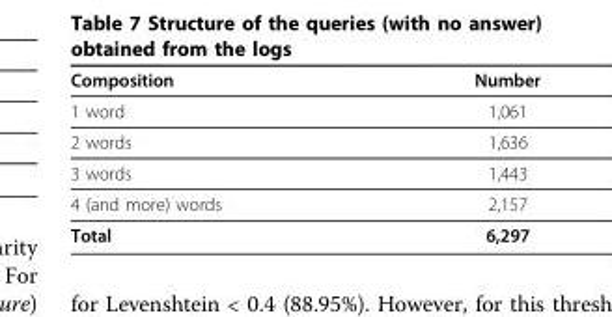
<table><thead><tr><td>Composition</td><td>Number</td></tr></thead><tbody><tr><td>1 word</td><td>1,061</td></tr><tr><td>2 words</td><td>1,636</td></tr><tr><td>3 words</td><td>1,443</td></tr><tr><td>4 (and more) words</td><td>2,157</td></tr><tr><td>Total</td><td>6,297</td></tr></tbody></table>